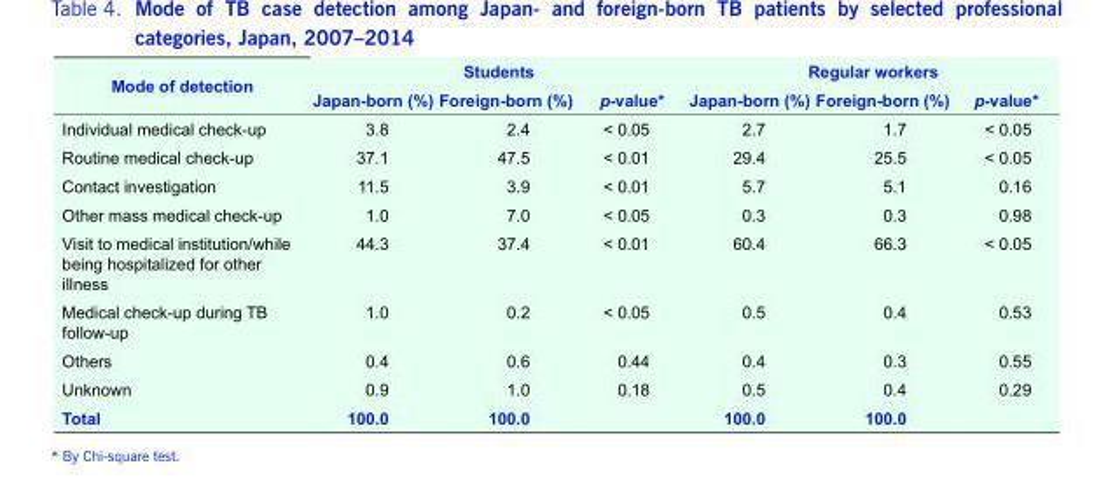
<table><thead><tr><td rowspan="2">Mode of detection</td><td colspan="3">Students</td><td colspan="3">Regular workers</td></tr><tr><td>Japan-born (%)</td><td>Foreign-born (%)</td><td>p-value*</td><td>Japan-born (%)</td><td>Foreign-born (%)</td><td>p-value*</td></tr></thead><tbody><tr><td>Individual medical check-up</td><td>3.8</td><td>2.4</td><td>&lt; 0.05</td><td>2.7</td><td>1.7</td><td>&lt; 0.05</td></tr><tr><td>Routine medical check-up</td><td>37.1</td><td>47.5</td><td>&lt; 0.01</td><td>29.4</td><td>25.5</td><td>&lt; 0.05</td></tr><tr><td>Contact investigation</td><td>11.5</td><td>3.9</td><td>&lt; 0.01</td><td>5.7</td><td>5.1</td><td>0.16</td></tr><tr><td>Other mass medical check-up</td><td>1.0</td><td>7.0</td><td>&lt; 0.05</td><td>0.3</td><td>0.3</td><td>0.98</td></tr><tr><td>Visit to medical institution/while being hospitalized for other illness</td><td>44.3</td><td>37.4</td><td>&lt; 0.01</td><td>60.4</td><td>66.3</td><td>&lt; 0.05</td></tr><tr><td>Medical check-up during TB follow-up</td><td>1.0</td><td>0.2</td><td>&lt; 0.05</td><td>0.5</td><td>0.4</td><td>0.53</td></tr><tr><td>Others</td><td>0.4</td><td>0.6</td><td>0.44</td><td>0.4</td><td>0.3</td><td>0.55</td></tr><tr><td>Unknown</td><td>0.9</td><td>1.0</td><td>0.18</td><td>0.5</td><td>0.4</td><td>0.29</td></tr><tr><td>Total</td><td>100.0</td><td>100.0</td><td></td><td>100.0</td><td>100.0</td><td></td></tr></tbody></table>